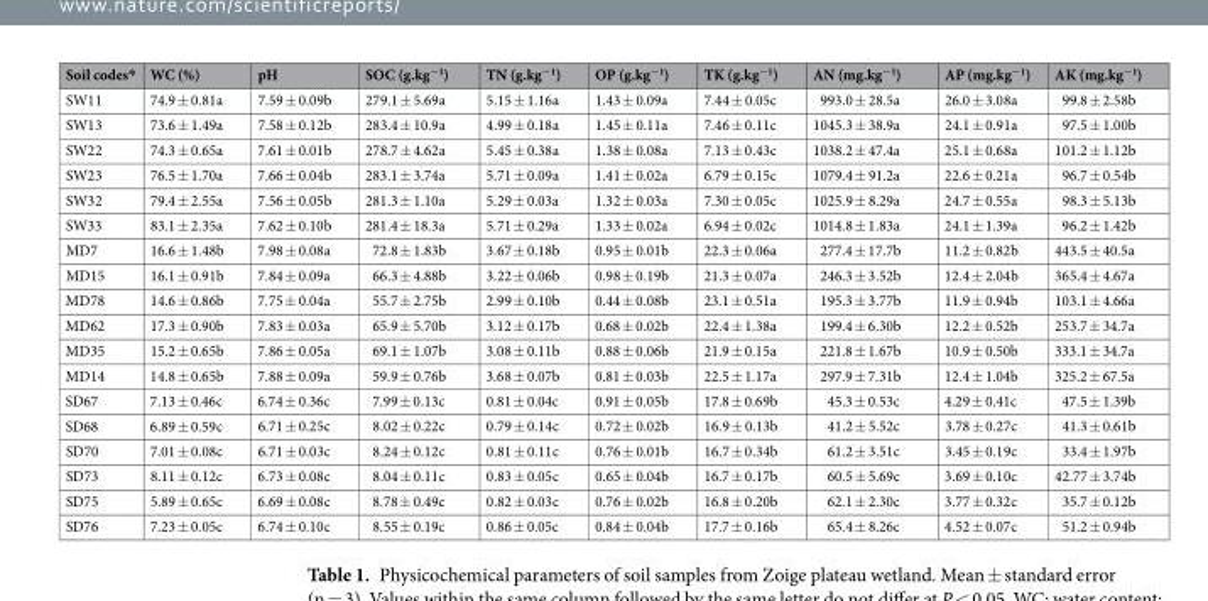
<table><thead><tr><td>Soil codes*</td><td>WC (%)</td><td>pH</td><td>SOC (g.kg<sup>−1</sup>)</td><td>TN (g.kg<sup>−1</sup>)</td><td>OP (g.kg<sup>−1</sup>)</td><td>TK (g.kg<sup>−1</sup>)</td><td>AN (mg.kg<sup>−1</sup>)</td><td>AP (mg.kg<sup>−1</sup>)</td><td>AK (mg.kg<sup>−1</sup>)</td></tr></thead><tbody><tr><td>SW11</td><td>74.9 ± 0.81a</td><td>7.59 ± 0.09b</td><td>279.1 ± 5.69a</td><td>5.15 ± 1.16a</td><td>1.43 ± 0.09a</td><td>7.44 ± 0.05c</td><td>993.0 ± 28.5a</td><td>26.0 ± 3.08a</td><td>99.8 ± 2.58b</td></tr><tr><td>SW13</td><td>73.6 ± 1.49a</td><td>7.58 ± 0.12b</td><td>283.4 ± 10.9a</td><td>4.99 ± 0.18a</td><td>1.45 ± 0.11a</td><td>7.46 ± 0.11c</td><td>1045.3 ± 38.9a</td><td>24.1 ± 0.91a</td><td>97.5 ± 1.00b</td></tr><tr><td>SW22</td><td>74.3 ± 0.65a</td><td>7.61 ± 0.01b</td><td>278.7 ± 4.62a</td><td>5.45 ± 0.38a</td><td>1.38 ± 0.08a</td><td>7.13 ± 0.43c</td><td>1038.2 ± 47.4a</td><td>25.1 ± 0.68a</td><td>101.2 ± 1.12b</td></tr><tr><td>SW23</td><td>76.5 ± 1.70a</td><td>7.66 ± 0.04b</td><td>283.1 ± 3.74a</td><td>5.71 ± 0.09a</td><td>1.41 ± 0.02a</td><td>6.79 ± 0.15c</td><td>1079.4 ± 91.2a</td><td>22.6 ± 0.21a</td><td>96.7 ± 0.54b</td></tr><tr><td>SW32</td><td>79.4 ± 2.55a</td><td>7.56 ± 0.05b</td><td>281.3 ± 1.10a</td><td>5.29 ± 0.03a</td><td>1.32 ± 0.03a</td><td>7.30 ± 0.05c</td><td>1025.9 ± 8.29a</td><td>24.7 ± 0.55a</td><td>98.3 ± 5.13b</td></tr><tr><td>SW33</td><td>83.1 ± 2.35a</td><td>7.62 ± 0.10b</td><td>281.4 ± 18.3a</td><td>5.71 ± 0.29a</td><td>1.33 ± 0.02a</td><td>6.94 ± 0.02c</td><td>1014.8 ± 1.83a</td><td>24.1 ± 1.39a</td><td>96.2 ± 1.42b</td></tr><tr><td>MD7</td><td>16.6 ± 1.48b</td><td>7.98 ± 0.08a</td><td>72.8 ± 1.83b</td><td>3.67 ± 0.18b</td><td>0.95 ± 0.01b</td><td>22.3 ± 0.06a</td><td>277.4 ± 17.7b</td><td>11.2 ± 0.82b</td><td>443.5 ± 40.5a</td></tr><tr><td>MD15</td><td>16.1 ± 0.91b</td><td>7.84 ± 0.09a</td><td>66.3 ± 4.88b</td><td>3.22 ± 0.06b</td><td>0.98 ± 0.19b</td><td>21.3 ± 0.07a</td><td>246.3 ± 3.52b</td><td>12.4 ± 2.04b</td><td>365.4 ± 4.67a</td></tr><tr><td>MD78</td><td>14.6 ± 0.86b</td><td>7.75 ± 0.04a</td><td>55.7 ± 2.75b</td><td>2.99 ± 0.10b</td><td>0.44 ± 0.08b</td><td>23.1 ± 0.51a</td><td>195.3 ± 3.77b</td><td>11.9 ± 0.94b</td><td>103.1 ± 4.66a</td></tr><tr><td>MD62</td><td>17.3 ± 0.90b</td><td>7.83 ± 0.03a</td><td>65.9 ± 5.70b</td><td>3.12 ± 0.17b</td><td>0.68 ± 0.02b</td><td>22.4 ± 1.38a</td><td>199.4 ± 6.30b</td><td>12.2 ± 0.52b</td><td>253.7 ± 34.7a</td></tr><tr><td>MD35</td><td>15.2 ± 0.65b</td><td>7.86 ± 0.05a</td><td>69.1 ± 1.07b</td><td>3.08 ± 0.11b</td><td>0.88 ± 0.06b</td><td>21.9 ± 0.15a</td><td>221.8 ± 1.67b</td><td>10.9 ± 0.50b</td><td>333.1 ± 34.7a</td></tr><tr><td>MD14</td><td>14.8 ± 0.65b</td><td>7.88 ± 0.09a</td><td>59.9 ± 0.76b</td><td>3.68 ± 0.07b</td><td>0.81 ± 0.03b</td><td>22.5 ± 1.17a</td><td>297.9 ± 7.31b</td><td>12.4 ± 1.04b</td><td>325.2 ± 67.5a</td></tr><tr><td>SD67</td><td>7.13 ± 0.46c</td><td>6.74 ± 0.36c</td><td>7.99 ± 0.13c</td><td>0.81 ± 0.04c</td><td>0.91 ± 0.05b</td><td>17.8 ± 0.69b</td><td>45.3 ± 0.53c</td><td>4.29 ± 0.41c</td><td>47.5 ± 1.39b</td></tr><tr><td>SD68</td><td>6.89 ± 0.59c</td><td>6.71 ± 0.25c</td><td>8.02 ± 0.22c</td><td>0.79 ± 0.14c</td><td>0.72 ± 0.02b</td><td>16.9 ± 0.13b</td><td>41.2 ± 5.52c</td><td>3.78 ± 0.27c</td><td>41.3 ± 0.61b</td></tr><tr><td>SD70</td><td>7.01 ± 0.08c</td><td>6.71 ± 0.03c</td><td>8.24 ± 0.12c</td><td>0.81 ± 0.11c</td><td>0.76 ± 0.01b</td><td>16.7 ± 0.34b</td><td>61.2 ± 3.51c</td><td>3.45 ± 0.19c</td><td>33.4 ± 1.97b</td></tr><tr><td>SD73</td><td>8.11 ± 0.12c</td><td>6.73 ± 0.08c</td><td>8.04 ± 0.11c</td><td>0.83 ± 0.05c</td><td>0.65 ± 0.04b</td><td>16.7 ± 0.17b</td><td>60.5 ± 5.69c</td><td>3.69 ± 0.10c</td><td>42.77 ± 3.74b</td></tr><tr><td>SD75</td><td>5.89 ± 0.65c</td><td>6.69 ± 0.08c</td><td>8.78 ± 0.49c</td><td>0.82 ± 0.03c</td><td>0.76 ± 0.02b</td><td>16.8 ± 0.20b</td><td>62.1 ± 2.30c</td><td>3.77 ± 0.32c</td><td>35.7 ± 0.12b</td></tr><tr><td>SD76</td><td>7.23 ± 0.05c</td><td>6.74 ± 0.10c</td><td>8.55 ± 0.19c</td><td>0.86 ± 0.05c</td><td>0.84 ± 0.04b</td><td>17.7 ± 0.16b</td><td>65.4 ± 8.26c</td><td>4.52 ± 0.07c</td><td>51.2 ± 0.94b</td></tr></tbody></table>